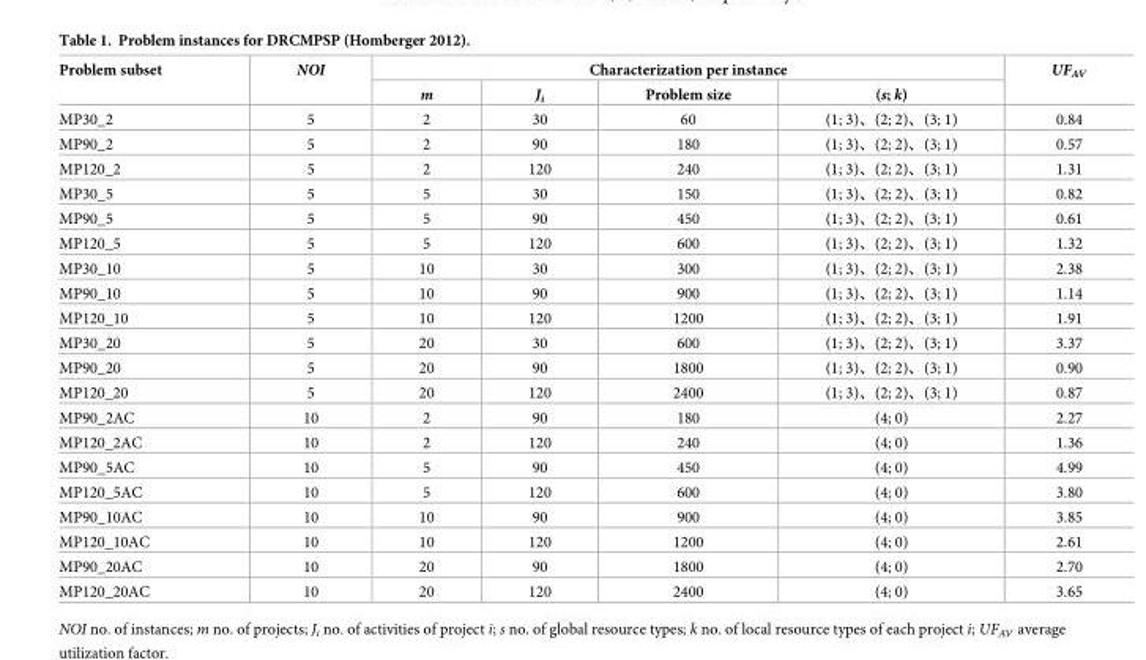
<table><thead><tr><td rowspan="2">Problem subset</td><td rowspan="2">NOI</td><td colspan="4">Characterization per instance</td><td rowspan="2">UF<sub>AV</sub></td></tr><tr><td>m</td><td>J<sub>i</sub></td><td>Problem size</td><td>(s; k)</td></tr></thead><tbody><tr><td>MP30_2</td><td>5</td><td>2</td><td>30</td><td>60</td><td>(1; 3)、(2; 2)、(3; 1)</td><td>0.84</td></tr><tr><td>MP90_2</td><td>5</td><td>2</td><td>90</td><td>180</td><td>(1; 3)、(2; 2)、(3; 1)</td><td>0.57</td></tr><tr><td>MP120_2</td><td>5</td><td>2</td><td>120</td><td>240</td><td>(1; 3)、(2; 2)、(3; 1)</td><td>1.31</td></tr><tr><td>MP30_5</td><td>5</td><td>5</td><td>30</td><td>150</td><td>(1; 3)、(2; 2)、(3; 1)</td><td>0.82</td></tr><tr><td>MP90_5</td><td>5</td><td>5</td><td>90</td><td>450</td><td>(1; 3)、(2; 2)、(3; 1)</td><td>0.61</td></tr><tr><td>MP120_5</td><td>5</td><td>5</td><td>120</td><td>600</td><td>(1; 3)、(2; 2)、(3; 1)</td><td>1.32</td></tr><tr><td>MP30_10</td><td>5</td><td>10</td><td>30</td><td>300</td><td>(1; 3)、(2; 2)、(3; 1)</td><td>2.38</td></tr><tr><td>MP90_10</td><td>5</td><td>10</td><td>90</td><td>900</td><td>(1; 3)、(2; 2)、(3; 1)</td><td>1.14</td></tr><tr><td>MP120_10</td><td>5</td><td>10</td><td>120</td><td>1200</td><td>(1; 3)、(2; 2)、(3; 1)</td><td>1.91</td></tr><tr><td>MP30_20</td><td>5</td><td>20</td><td>30</td><td>600</td><td>(1; 3)、(2; 2)、(3; 1)</td><td>3.37</td></tr><tr><td>MP90_20</td><td>5</td><td>20</td><td>90</td><td>1800</td><td>(1; 3)、(2; 2)、(3; 1)</td><td>0.90</td></tr><tr><td>MP120_20</td><td>5</td><td>20</td><td>120</td><td>2400</td><td>(1; 3)、(2; 2)、(3; 1)</td><td>0.87</td></tr><tr><td>MP90_2AC</td><td>10</td><td>2</td><td>90</td><td>180</td><td>(4; 0)</td><td>2.27</td></tr><tr><td>MP120_2AC</td><td>10</td><td>2</td><td>120</td><td>240</td><td>(4; 0)</td><td>1.36</td></tr><tr><td>MP90_5AC</td><td>10</td><td>5</td><td>90</td><td>450</td><td>(4; 0)</td><td>4.99</td></tr><tr><td>MP120_5AC</td><td>10</td><td>5</td><td>120</td><td>600</td><td>(4; 0)</td><td>3.80</td></tr><tr><td>MP90_10AC</td><td>10</td><td>10</td><td>90</td><td>900</td><td>(4; 0)</td><td>3.85</td></tr><tr><td>MP120_10AC</td><td>10</td><td>10</td><td>120</td><td>1200</td><td>(4; 0)</td><td>2.61</td></tr><tr><td>MP90_20AC</td><td>10</td><td>20</td><td>90</td><td>1800</td><td>(4; 0)</td><td>2.70</td></tr><tr><td>MP120_20AC</td><td>10</td><td>20</td><td>120</td><td>2400</td><td>(4; 0)</td><td>3.65</td></tr></tbody></table>